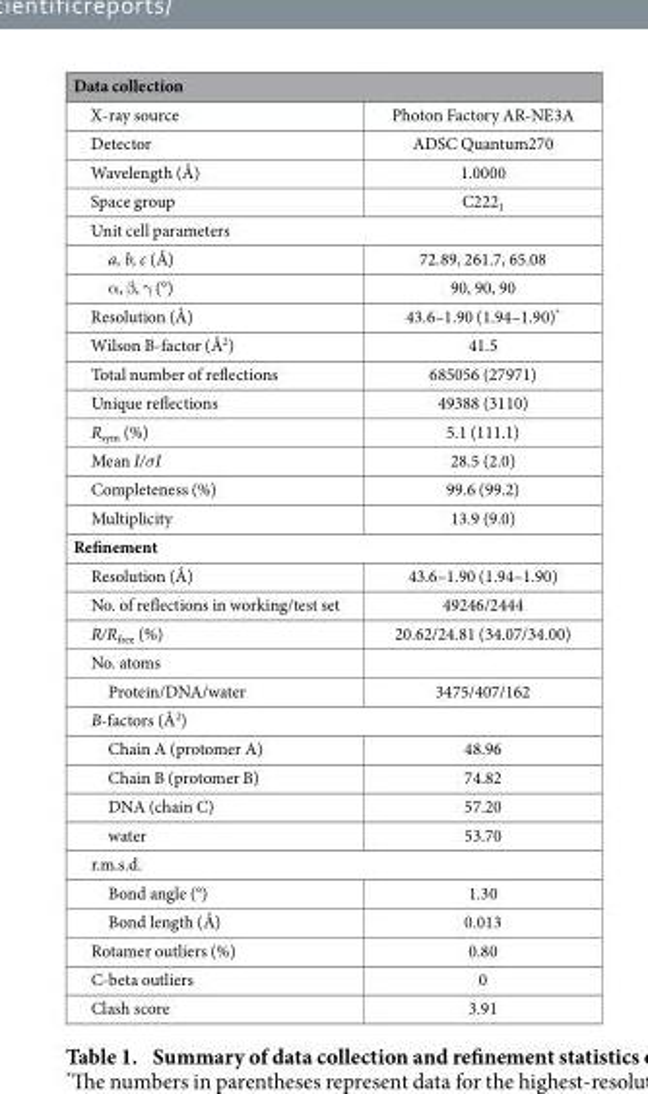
<table><thead><tr><td colspan="2">Data collection</td></tr><tr><td>X-ray source</td><td>Photon Factory AR-NE3A</td></tr></thead><tbody><tr><td>Detector</td><td>ADSC Quantum270</td></tr><tr><td>Wavelength (Å)</td><td>1.0000</td></tr><tr><td>Space group</td><td>C222<sub>1</sub></td></tr><tr><td colspan="2">Unit cell parameters</td></tr><tr><td>a, b, c (Å)</td><td>72.89, 261.7, 65.08</td></tr><tr><td>α , β , γ (°)</td><td>90, 90, 90</td></tr><tr><td>Resolution (Å)</td><td>43.6–1.90 (1.94–1.90)*</td></tr><tr><td>Wilson B-factor (Å<sup>2</sup>)</td><td>41.5</td></tr><tr><td>Total number of reflections</td><td>685056 (27971)</td></tr><tr><td>Unique reflections</td><td>49388 (3110)</td></tr><tr><td>R<sub>sym</sub> (%)</td><td>5.1 (111.1)</td></tr><tr><td>Mean I/σI</td><td>28.5 (2.0)</td></tr><tr><td>Completeness (%)</td><td>99.6 (99.2)</td></tr><tr><td>Multiplicity</td><td>13.9 (9.0)</td></tr><tr><td colspan="2">Refinement</td></tr><tr><td>Resolution (Å)</td><td>43.6–1.90 (1.94–1.90)</td></tr><tr><td>No. of reflections in working/test set</td><td>49246/2444</td></tr><tr><td>R/R<sub>free</sub> (%)</td><td>20.62/24.81 (34.07/34.00)</td></tr><tr><td colspan="2">No. atoms</td></tr><tr><td>Protein/DNA/water</td><td>3475/407/162</td></tr><tr><td colspan="2">B-factors (Å<sup>2</sup>)</td></tr><tr><td>Chain A (protomer A)</td><td>48.96</td></tr><tr><td>Chain B (protomer B)</td><td>74.82</td></tr><tr><td>DNA (chain C)</td><td>57.20</td></tr><tr><td>water</td><td>53.70</td></tr><tr><td colspan="2">r.m.s.d.</td></tr><tr><td>Bond angle (°)</td><td>1.30</td></tr><tr><td>Bond length (Å)</td><td>0.013</td></tr><tr><td>Rotamer outliers (%)</td><td>0.80</td></tr><tr><td>C-beta outliers</td><td>0</td></tr><tr><td>Clash score</td><td>3.91</td></tr></tbody></table>